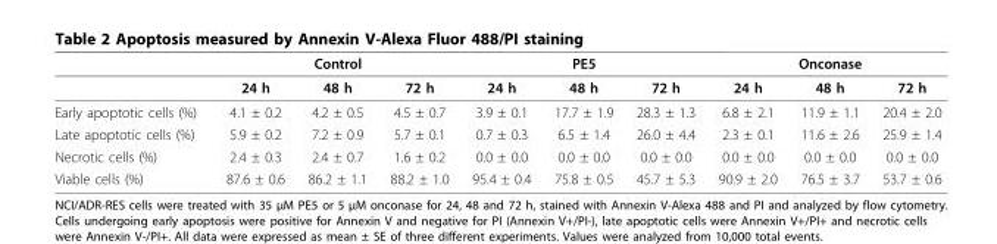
<table><thead><tr><td rowspan="2"></td><td colspan="3">Control</td><td colspan="3">PE5</td><td colspan="3">Onconase</td></tr><tr><td>24 h</td><td>48 h</td><td>72 h</td><td>24 h</td><td>48 h</td><td>72 h</td><td>24 h</td><td>48 h</td><td>72 h</td></tr></thead><tbody><tr><td>Early apoptotic cells (%)</td><td>4.1 ± 0.2</td><td>4.2 ± 0.5</td><td>4.5 ± 0.7</td><td>3.9 ± 0.1</td><td>17.7 ± 1.9</td><td>28.3 ± 1.3</td><td>6.8 ± 2.1</td><td>11.9 ± 1.1</td><td>20.4 ± 2.0</td></tr><tr><td>Late apoptotic cells (%)</td><td>5.9 ± 0.2</td><td>7.2 ± 0.9</td><td>5.7 ± 0.1</td><td>0.7 ± 0.3</td><td>6.5 ± 1.4</td><td>26.0 ± 4.4</td><td>2.3 ± 0.1</td><td>11.6 ± 2.6</td><td>25.9 ± 1.4</td></tr><tr><td>Necrotic cells (%)</td><td>2.4 ± 0.3</td><td>2.4 ± 0.7</td><td>1.6 ± 0.2</td><td>0.0 ± 0.0</td><td>0.0 ± 0.0</td><td>0.0 ± 0.0</td><td>0.0 ± 0.0</td><td>0.0 ± 0.0</td><td>0.0 ± 0.0</td></tr><tr><td>Viable cells (%)</td><td>87.6 ± 0.6</td><td>86.2 ± 1.1</td><td>88.2 ± 1.0</td><td>95.4 ± 0.4</td><td>75.8 ± 0.5</td><td>45.7 ± 5.3</td><td>90.9 ± 2.0</td><td>76.5 ± 3.7</td><td>53.7 ± 0.6</td></tr></tbody></table>